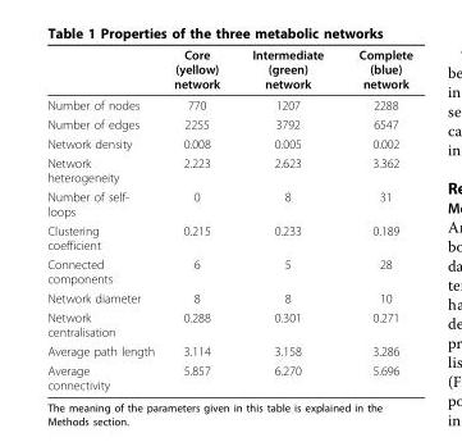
<table><thead><tr><td></td><td>Core (yellow) network</td><td>Intermediate (green) network</td><td>Complete (blue) network</td></tr></thead><tbody><tr><td>Number of nodes</td><td>770</td><td>1207</td><td>2288</td></tr><tr><td>Number of edges</td><td>2255</td><td>3792</td><td>6547</td></tr><tr><td>Network density</td><td>0.008</td><td>0.005</td><td>0.002</td></tr><tr><td>Network heterogeneity</td><td>2.223</td><td>2.623</td><td>3.362</td></tr><tr><td>Number of self- loops</td><td>0</td><td>8</td><td>31</td></tr><tr><td>Clustering coefficient</td><td>0.215</td><td>0.233</td><td>0.189</td></tr><tr><td>Connected components</td><td>6</td><td>5</td><td>28</td></tr><tr><td>Network diameter</td><td>8</td><td>8</td><td>10</td></tr><tr><td>Network centralisation</td><td>0.288</td><td>0.301</td><td>0.271</td></tr><tr><td>Average path length</td><td>3.114</td><td>3.158</td><td>3.286</td></tr><tr><td>Average connectivity</td><td>5.857</td><td>6.270</td><td>5.696</td></tr></tbody></table>